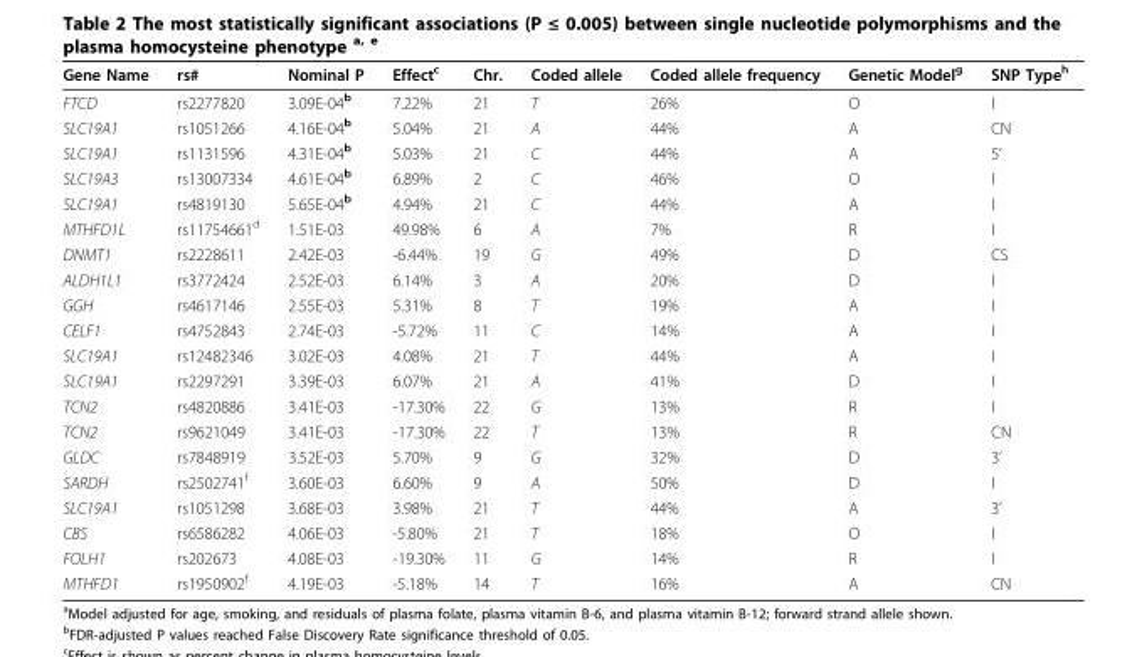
<table><thead><tr><td>Gene Name</td><td>rs#</td><td>Nominal P</td><td>Effect<sup>c</sup></td><td>Chr.</td><td>Coded allele</td><td>Coded allele frequency</td><td>Genetic Model<sup>g</sup></td><td>SNP Type<sup>h</sup></td></tr></thead><tbody><tr><td>FTCD</td><td>rs2277820</td><td>3.09E-04<sup>b</sup></td><td>7.22%</td><td>21</td><td>T</td><td>26%</td><td>O</td><td>I</td></tr><tr><td>SLC19A1</td><td>rs1051266</td><td>4.16E-04<sup>b</sup></td><td>5.04%</td><td>21</td><td>A</td><td>44%</td><td>A</td><td>CN</td></tr><tr><td>SLC19A1</td><td>rs1131596</td><td>4.31E-04<sup>b</sup></td><td>5.03%</td><td>21</td><td>C</td><td>44%</td><td>A</td><td>5’</td></tr><tr><td>SLC19A3</td><td>rs13007334</td><td>4.61E-04<sup>b</sup></td><td>6.89%</td><td>2</td><td>C</td><td>46%</td><td>O</td><td>I</td></tr><tr><td>SLC19A1</td><td>rs4819130</td><td>5.65E-04<sup>b</sup></td><td>4.94%</td><td>21</td><td>C</td><td>44%</td><td>A</td><td>I</td></tr><tr><td>MTHFD1L</td><td>rs11754661<sup>d</sup></td><td>1.51E-03</td><td>49.98%</td><td>6</td><td>A</td><td>7%</td><td>R</td><td>I</td></tr><tr><td>DNMT1</td><td>rs2228611</td><td>2.42E-03</td><td>-6.44%</td><td>19</td><td>G</td><td>49%</td><td>D</td><td>CS</td></tr><tr><td>ALDH1L1</td><td>rs3772424</td><td>2.52E-03</td><td>6.14%</td><td>3</td><td>A</td><td>20%</td><td>D</td><td>I</td></tr><tr><td>GGH</td><td>rs4617146</td><td>2.55E-03</td><td>5.31%</td><td>8</td><td>T</td><td>19%</td><td>A</td><td>I</td></tr><tr><td>CELF1</td><td>rs4752843</td><td>2.74E-03</td><td>-5.72%</td><td>11</td><td>C</td><td>14%</td><td>A</td><td>I</td></tr><tr><td>SLC19A1</td><td>rs12482346</td><td>3.02E-03</td><td>4.08%</td><td>21</td><td>T</td><td>44%</td><td>A</td><td>I</td></tr><tr><td>SLC19A1</td><td>rs2297291</td><td>3.39E-03</td><td>6.07%</td><td>21</td><td>A</td><td>41%</td><td>D</td><td>I</td></tr><tr><td>TCN2</td><td>rs4820886</td><td>3.41E-03</td><td>-17.30%</td><td>22</td><td>G</td><td>13%</td><td>R</td><td>I</td></tr><tr><td>TCN2</td><td>rs9621049</td><td>3.41E-03</td><td>-17.30%</td><td>22</td><td>T</td><td>13%</td><td>R</td><td>CN</td></tr><tr><td>GLDC</td><td>rs7848919</td><td>3.52E-03</td><td>5.70%</td><td>9</td><td>G</td><td>32%</td><td>D</td><td>3’</td></tr><tr><td>SARDH</td><td>rs2502741<sup>f</sup></td><td>3.60E-03</td><td>6.60%</td><td>9</td><td>A</td><td>50%</td><td>D</td><td>I</td></tr><tr><td>SLC19A1</td><td>rs1051298</td><td>3.68E-03</td><td>3.98%</td><td>21</td><td>T</td><td>44%</td><td>A</td><td>3’</td></tr><tr><td>CBS</td><td>rs6586282</td><td>4.06E-03</td><td>-5.80%</td><td>21</td><td>T</td><td>18%</td><td>O</td><td>I</td></tr><tr><td>FOLH1</td><td>rs202673</td><td>4.08E-03</td><td>-19.30%</td><td>11</td><td>G</td><td>14%</td><td>R</td><td>I</td></tr><tr><td>MTHFD1</td><td>rs1950902<sup>f</sup></td><td>4.19E-03</td><td>-5.18%</td><td>14</td><td>T</td><td>16%</td><td>A</td><td>CN</td></tr></tbody></table>